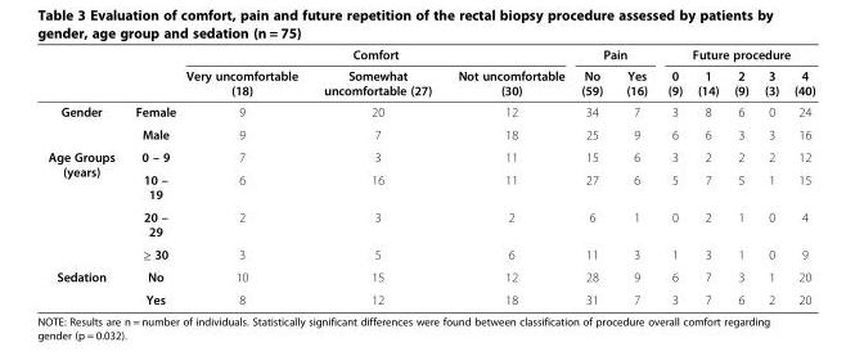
<table><thead><tr><td rowspan="2"></td><td rowspan="2"></td><td colspan="3">Comfort</td><td colspan="2">Pain</td><td colspan="5">Future procedure</td></tr><tr><td>Very uncomfortable (18)</td><td>Somewhat uncomfortable (27)</td><td>Not uncomfortable (30)</td><td>No (59)</td><td>Yes (16)</td><td>0 (9)</td><td>1 (14)</td><td>2 (9)</td><td>3 (3)</td><td>4 (40)</td></tr></thead><tbody><tr><td rowspan="2">Gender</td><td>Female</td><td>9</td><td>20</td><td>12</td><td>34</td><td>7</td><td>3</td><td>8</td><td>6</td><td>0</td><td>24</td></tr><tr><td>Male</td><td>9</td><td>7</td><td>18</td><td>25</td><td>9</td><td>6</td><td>6</td><td>3</td><td>3</td><td>16</td></tr><tr><td rowspan="4">Age Groups (years)</td><td>0 – 9</td><td>7</td><td>3</td><td>11</td><td>15</td><td>6</td><td>3</td><td>2</td><td>2</td><td>2</td><td>12</td></tr><tr><td>10 – 19</td><td>6</td><td>16</td><td>11</td><td>27</td><td>6</td><td>5</td><td>7</td><td>5</td><td>1</td><td>15</td></tr><tr><td>20 – 29</td><td>2</td><td>3</td><td>2</td><td>6</td><td>1</td><td>0</td><td>2</td><td>1</td><td>0</td><td>4</td></tr><tr><td>≥ 30</td><td>3</td><td>5</td><td>6</td><td>11</td><td>3</td><td>1</td><td>3</td><td>1</td><td>0</td><td>9</td></tr><tr><td rowspan="2">Sedation</td><td>No</td><td>10</td><td>15</td><td>12</td><td>28</td><td>9</td><td>6</td><td>7</td><td>3</td><td>1</td><td>20</td></tr><tr><td>Yes</td><td>8</td><td>12</td><td>18</td><td>31</td><td>7</td><td>3</td><td>7</td><td>6</td><td>2</td><td>20</td></tr></tbody></table>